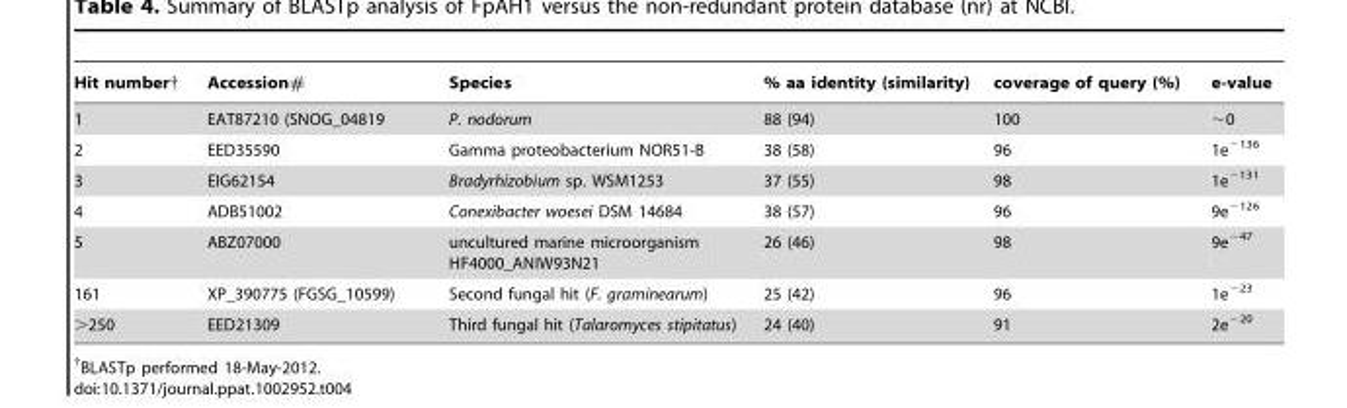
<table><thead><tr><td>Hit number†</td><td>Accession#</td><td>Species</td><td>% aa identity (similarity)</td><td>coverage of query (%)</td><td>e-value</td></tr></thead><tbody><tr><td>1</td><td>EAT87210 (SNOG_04819</td><td>P. nodorum</td><td>88 (94)</td><td>100</td><td>∼0</td></tr><tr><td>2</td><td>EED35590</td><td>Gamma proteobacterium NOR51-B</td><td>38 (58)</td><td>96</td><td>1e<sup>−136</sup></td></tr><tr><td>3</td><td>EIG62154</td><td>Bradyrhizobium sp. WSM1253</td><td>37 (55)</td><td>98</td><td>1e<sup>−131</sup></td></tr><tr><td>4</td><td>ADB51002</td><td>Conexibacter woesei DSM 14684</td><td>38 (57)</td><td>96</td><td>9e<sup>−126</sup></td></tr><tr><td>5</td><td>ABZ07000</td><td>uncultured marine microorganism HF4000_ANIW93N21</td><td>26 (46)</td><td>98</td><td>9e<sup>−47</sup></td></tr><tr><td>161</td><td>XP_390775 (FGSG_10599)</td><td>Second fungal hit (F. graminearum)</td><td>25 (42)</td><td>96</td><td>1e<sup>−23</sup></td></tr><tr><td>&gt;250</td><td>EED21309</td><td>Third fungal hit (Talaromyces stipitatus)</td><td>24 (40)</td><td>91</td><td>2e<sup>−20</sup></td></tr></tbody></table>